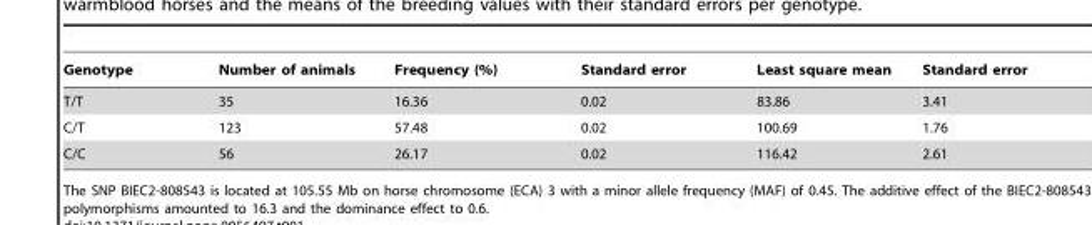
<table><thead><tr><td>Genotype</td><td>Number of animals</td><td>Frequency (%)</td><td>Standard error</td><td>Least square mean</td><td>Standard error</td></tr></thead><tbody><tr><td>T/T</td><td>35</td><td>16.36</td><td>0.02</td><td>83.86</td><td>3.41</td></tr><tr><td>C/T</td><td>123</td><td>57.48</td><td>0.02</td><td>100.69</td><td>1.76</td></tr><tr><td>C/C</td><td>56</td><td>26.17</td><td>0.02</td><td>116.42</td><td>2.61</td></tr></tbody></table>